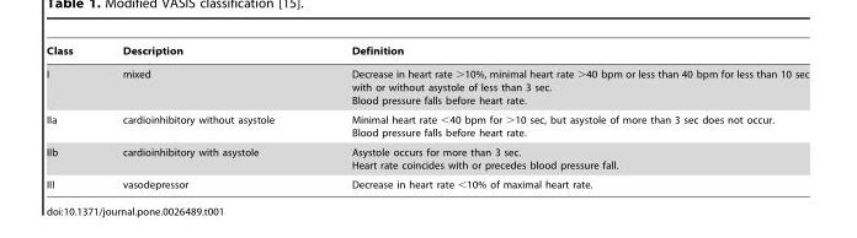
<table><thead><tr><td>Class</td><td>Description</td><td>Definition</td></tr></thead><tbody><tr><td>I</td><td>mixed</td><td>Decrease in heart rate &gt;10%, minimal heart rate &gt;40 bpm or less than 40 bpm for less than 10 sec with or without asystole of less than 3 sec. Blood pressure falls before heart rate.</td></tr><tr><td>IIa</td><td>cardioinhibitory without asystole</td><td>Minimal heart rate &lt;40 bpm for &gt;10 sec, but asystole of more than 3 sec does not occur. Blood pressure falls before heart rate.</td></tr><tr><td>IIb</td><td>cardioinhibitory with asystole</td><td>Asystole occurs for more than 3 sec. Heart rate coincides with or precedes blood pressure fall.</td></tr><tr><td>III</td><td>vasodepressor</td><td>Decrease in heart rate &lt;10% of maximal heart rate.</td></tr></tbody></table>